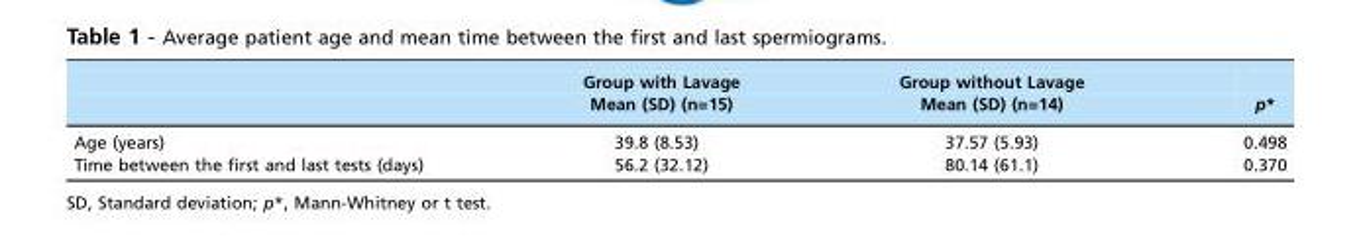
<table><thead><tr><td rowspan="2"></td><td rowspan="2">Group with Lavage Mean (SD) (n=15)</td><td rowspan="2">Group without Lavage Mean (SD) (n=14)</td><td rowspan="2">p*</td></tr><tr></tr></thead><tbody><tr><td>Age (years)</td><td>39.8 (8.53)</td><td>37.57 (5.93)</td><td>0.498</td></tr><tr><td>Time between the first and last tests (days)</td><td>56.2 (32.12)</td><td>80.14 (61.1)</td><td>0.370</td></tr></tbody></table>